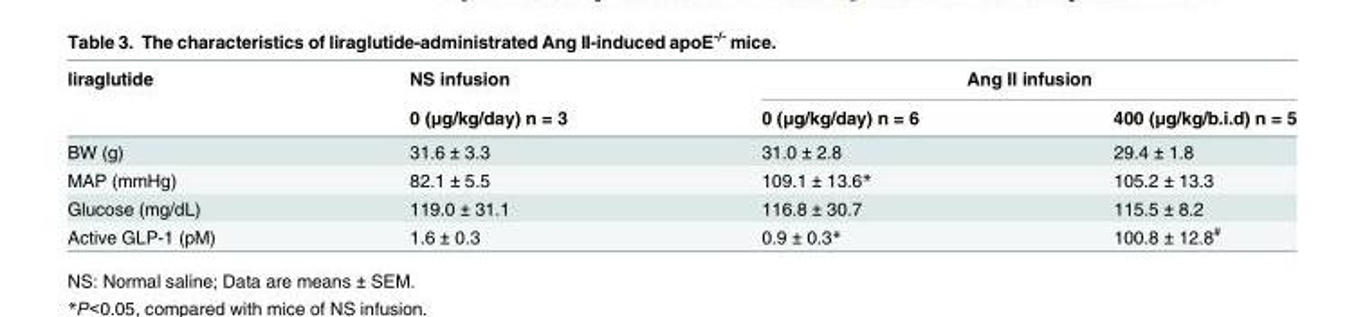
<table><thead><tr><td rowspan="2">liraglutide</td><td rowspan="2">NS infusion 0 (μg/kg/day) n = 3</td><td colspan="2">Ang II infusion</td></tr><tr><td>0 (μg/kg/day) n = 6</td><td>400 (μg/kg/b.i.d) n = 5</td></tr></thead><tbody><tr><td>BW (g)</td><td>31.6 ± 3.3</td><td>31.0 ± 2.8</td><td>29.4 ± 1.8</td></tr><tr><td>MAP (mmHg)</td><td>82.1 ± 5.5</td><td>109.1 ± 13.6*</td><td>105.2 ± 13.3</td></tr><tr><td>Glucose (mg/dL)</td><td>119.0 ± 31.1</td><td>116.8 ± 30.7</td><td>115.5 ± 8.2</td></tr><tr><td>Active GLP-1 (pM)</td><td>1.6 ± 0.3</td><td>0.9 ± 0.3*</td><td>100.8 ± 12.8<sup>#</sup></td></tr></tbody></table>